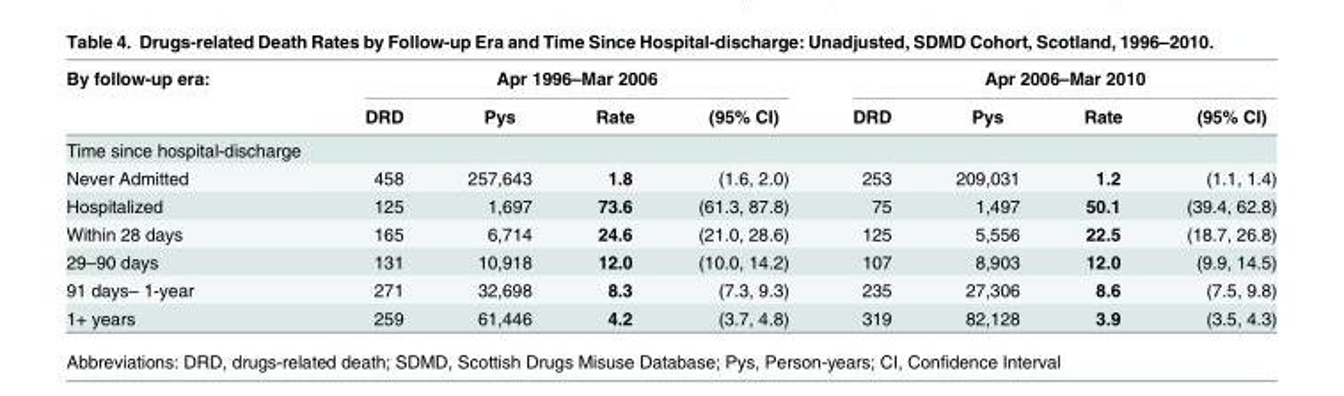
<table><thead><tr><td rowspan="2">By follow-up era:</td><td colspan="4">Apr 1996–Mar 2006</td><td colspan="4">Apr 2006–Mar 2010</td></tr><tr><td>DRD</td><td>Pys</td><td>Rate</td><td>(95% CI)</td><td>DRD</td><td>Pys</td><td>Rate</td><td>(95% CI)</td></tr></thead><tbody><tr><td colspan="9">Time since hospital-discharge</td></tr><tr><td>Never Admitted</td><td>458</td><td>257,643</td><td>1.8</td><td>(1.6, 2.0)</td><td>253</td><td>209,031</td><td>1.2</td><td>(1.1, 1.4)</td></tr><tr><td>Hospitalized</td><td>125</td><td>1,697</td><td>73.6</td><td>(61.3, 87.8)</td><td>75</td><td>1,497</td><td>50.1</td><td>(39.4, 62.8)</td></tr><tr><td>Within 28 days</td><td>165</td><td>6,714</td><td>24.6</td><td>(21.0, 28.6)</td><td>125</td><td>5,556</td><td>22.5</td><td>(18.7, 26.8)</td></tr><tr><td>29–90 days</td><td>131</td><td>10,918</td><td>12.0</td><td>(10.0, 14.2)</td><td>107</td><td>8,903</td><td>12.0</td><td>(9.9, 14.5)</td></tr><tr><td>91 days– 1-year</td><td>271</td><td>32,698</td><td>8.3</td><td>(7.3, 9.3)</td><td>235</td><td>27,306</td><td>8.6</td><td>(7.5, 9.8)</td></tr><tr><td>1+ years</td><td>259</td><td>61,446</td><td>4.2</td><td>(3.7, 4.8)</td><td>319</td><td>82,128</td><td>3.9</td><td>(3.5, 4.3)</td></tr></tbody></table>